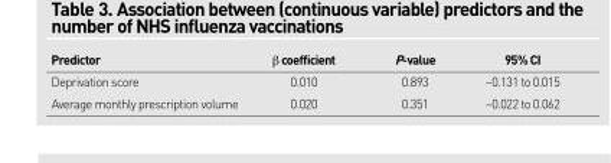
<table><thead><tr><td>Predictor</td><td>β coefficient</td><td>P-value</td><td>95% CI</td></tr></thead><tbody><tr><td>Deprivation score</td><td>0.010</td><td>0.893</td><td>–0.131 to 0.015</td></tr><tr><td>Average monthly prescription volume</td><td>0.020</td><td>0.351</td><td>–0.022 to 0.062</td></tr></tbody></table>